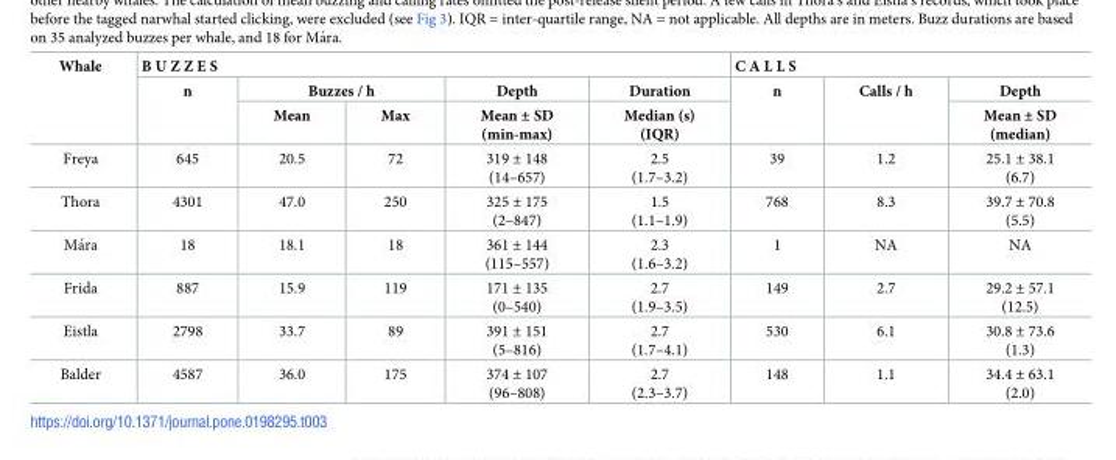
<table><thead><tr><td rowspan="3">Whale</td><td colspan="5">B U Z Z E S</td><td colspan="3">C A L L S</td></tr><tr><td rowspan="2">n</td><td colspan="2">Buzzes / h</td><td rowspan="2">Depth Mean ± SD (min-max)</td><td rowspan="2">Duration Median (s) (IQR)</td><td rowspan="2">n</td><td rowspan="2">Calls / h</td><td rowspan="2">Depth Mean ± SD (median)</td></tr><tr><td>Mean</td><td>Max</td></tr></thead><tbody><tr><td>Freya</td><td>645</td><td>20.5</td><td>72</td><td>319 ± 148 (14–657)</td><td>2.5 (1.7–3.2)</td><td>39</td><td>1.2</td><td>25.1 ± 38.1 (6.7)</td></tr><tr><td>Thora</td><td>4301</td><td>47.0</td><td>250</td><td>325 ± 175 (2–847)</td><td>1.5 (1.1–1.9)</td><td>768</td><td>8.3</td><td>39.7 ± 70.8 (5.5)</td></tr><tr><td>Ma´ra</td><td>18</td><td>18.1</td><td>18</td><td>361 ± 144 (115–557)</td><td>2.3 (1.6–3.2)</td><td>1</td><td>NA</td><td>NA</td></tr><tr><td>Frida</td><td>887</td><td>15.9</td><td>119</td><td>171 ± 135 (0–540)</td><td>2.7 (1.9–3.5)</td><td>149</td><td>2.7</td><td>29.2 ± 57.1 (12.5)</td></tr><tr><td>Eistla</td><td>2798</td><td>33.7</td><td>89</td><td>391 ± 151 (5–816)</td><td>2.7 (1.7–4.1)</td><td>530</td><td>6.1</td><td>30.8 ± 73.6 (1.3)</td></tr><tr><td>Balder</td><td>4587</td><td>36.0</td><td>175</td><td>374 ± 107 (96–808)</td><td>2.7 (2.3–3.7)</td><td>148</td><td>1.1</td><td>34.4 ± 63.1 (2.0)</td></tr></tbody></table>